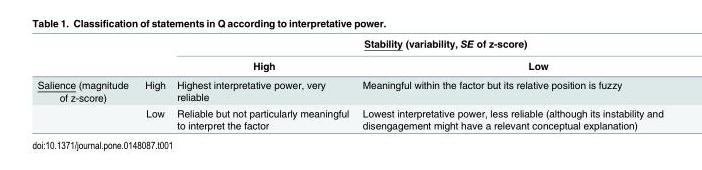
<table><thead><tr><td rowspan="2"></td><td rowspan="2"></td><td colspan="2">Stability (variability, SE of z-score)</td></tr><tr><td>High</td><td>Low</td></tr></thead><tbody><tr><td rowspan="2">Salience (magnitude of z-score)</td><td>High</td><td>Highest interpretative power, very reliable</td><td>Meaningful within the factor but its relative position is fuzzy</td></tr><tr><td>Low</td><td>Reliable but not particularly meaningful to interpret the factor</td><td>Lowest interpretative power, less reliable (although its instability and disengagement might have a relevant conceptual explanation)</td></tr></tbody></table>